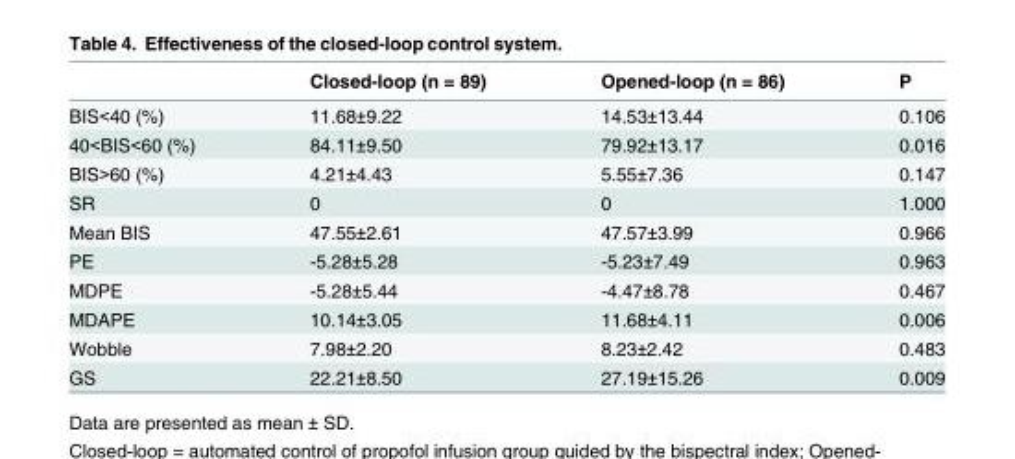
<table><thead><tr><td></td><td>Closed-loop (n = 89)</td><td>Opened-loop (n = 86)</td><td>P</td></tr></thead><tbody><tr><td>BIS&lt;40 (%)</td><td>11.68±9.22</td><td>14.53±13.44</td><td>0.106</td></tr><tr><td>40&lt;BIS&lt;60 (%)</td><td>84.11±9.50</td><td>79.92±13.17</td><td>0.016</td></tr><tr><td>BIS&gt;60 (%)</td><td>4.21±4.43</td><td>5.55±7.36</td><td>0.147</td></tr><tr><td>SR</td><td>0</td><td>0</td><td>1.000</td></tr><tr><td>Mean BIS</td><td>47.55±2.61</td><td>47.57±3.99</td><td>0.966</td></tr><tr><td>PE</td><td>-5.28±5.28</td><td>-5.23±7.49</td><td>0.963</td></tr><tr><td>MDPE</td><td>-5.28±5.44</td><td>-4.47±8.78</td><td>0.467</td></tr><tr><td>MDAPE</td><td>10.14±3.05</td><td>11.68±4.11</td><td>0.006</td></tr><tr><td>Wobble</td><td>7.98±2.20</td><td>8.23±2.42</td><td>0.483</td></tr><tr><td>GS</td><td>22.21±8.50</td><td>27.19±15.26</td><td>0.009</td></tr></tbody></table>